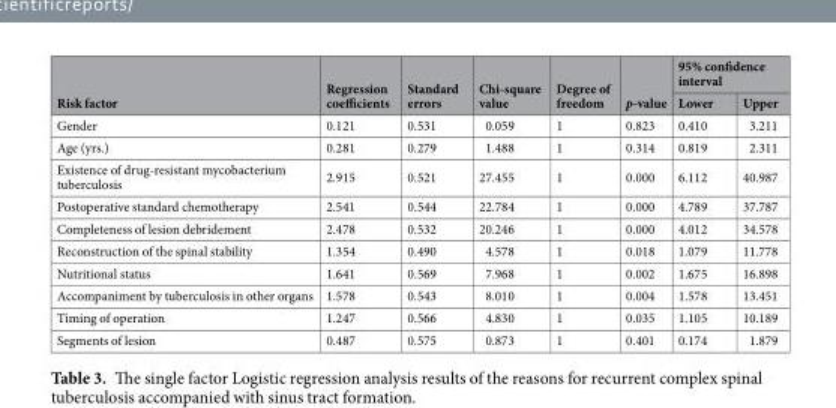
<table><thead><tr><td rowspan="2">Risk factor</td><td rowspan="2">Regression coefficients</td><td rowspan="2">Standard errors</td><td rowspan="2">Chi-square value</td><td rowspan="2">Degree of freedom</td><td rowspan="2">p-value</td><td colspan="2">95% confidence interval</td></tr><tr><td>Lower</td><td>Upper</td></tr></thead><tbody><tr><td>Gender</td><td>0.121</td><td>0.531</td><td>0.059</td><td>1</td><td>0.823</td><td>0.410</td><td>3.211</td></tr><tr><td>Age (yrs.)</td><td>0.281</td><td>0.279</td><td>1.488</td><td>1</td><td>0.314</td><td>0.819</td><td>2.311</td></tr><tr><td>Existence of drug-resistant mycobacterium tuberculosis</td><td>2.915</td><td>0.521</td><td>27.455</td><td>1</td><td>0.000</td><td>6.112</td><td>40.987</td></tr><tr><td>Postoperative standard chemotherapy</td><td>2.541</td><td>0.544</td><td>22.784</td><td>1</td><td>0.000</td><td>4.789</td><td>37.787</td></tr><tr><td>Completeness of lesion debridement</td><td>2.478</td><td>0.532</td><td>20.246</td><td>1</td><td>0.000</td><td>4.012</td><td>34.578</td></tr><tr><td>Reconstruction of the spinal stability</td><td>1.354</td><td>0.490</td><td>4.578</td><td>1</td><td>0.018</td><td>1.079</td><td>11.778</td></tr><tr><td>Nutritional status</td><td>1.641</td><td>0.569</td><td>7.968</td><td>1</td><td>0.002</td><td>1.675</td><td>16.898</td></tr><tr><td>Accompaniment by tuberculosis in other organs</td><td>1.578</td><td>0.543</td><td>8.010</td><td>1</td><td>0.004</td><td>1.578</td><td>13.451</td></tr><tr><td>Timing of operation</td><td>1.247</td><td>0.566</td><td>4.830</td><td>1</td><td>0.035</td><td>1.105</td><td>10.189</td></tr><tr><td>Segments of lesion</td><td>0.487</td><td>0.575</td><td>0.873</td><td>1</td><td>0.401</td><td>0.174</td><td>1.879</td></tr></tbody></table>